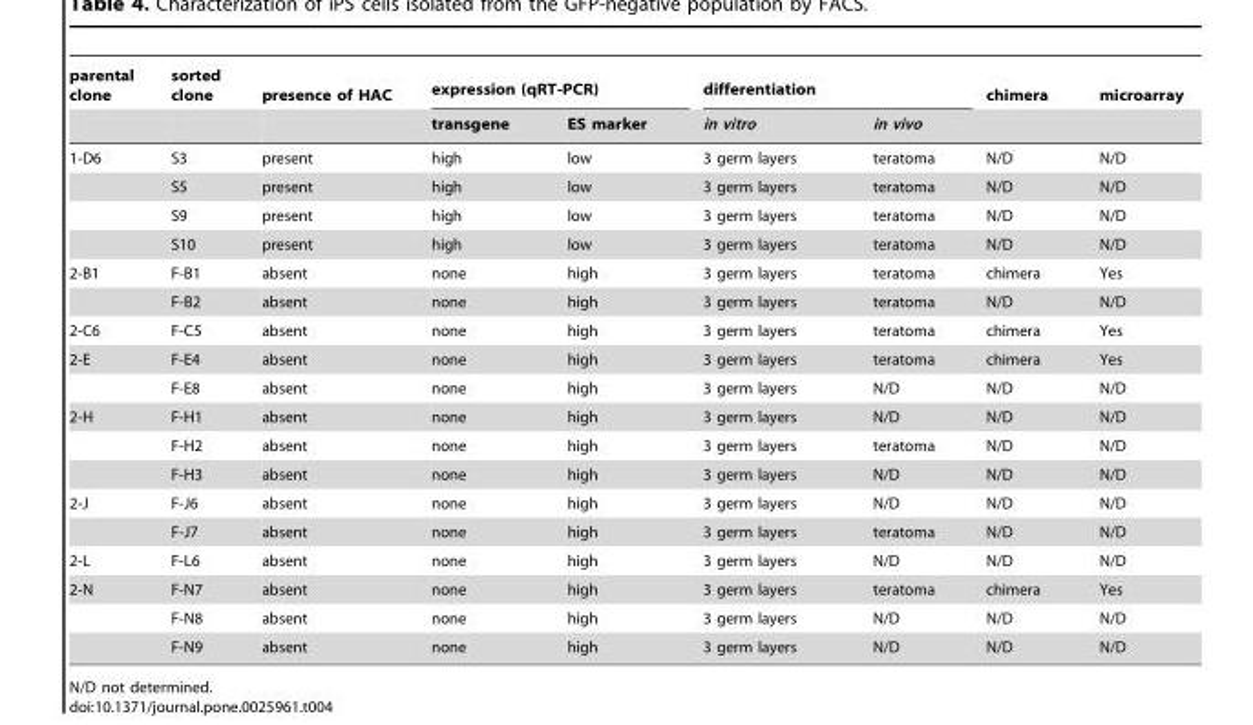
<table><thead><tr><td rowspan="2">parental clone</td><td rowspan="2">sorted clone</td><td rowspan="2">presence of HAC</td><td colspan="2">expression (qRT-PCR)</td><td colspan="2">differentiation</td><td rowspan="2">chimera</td><td rowspan="2">microarray</td></tr><tr><td>transgene</td><td>ES marker</td><td>in vitro</td><td>in vivo</td></tr></thead><tbody><tr><td rowspan="4">1-D6</td><td>S3</td><td>present</td><td>high</td><td>low</td><td>3 germ layers</td><td>teratoma</td><td>N/D</td><td>N/D</td></tr><tr><td>S5</td><td>present</td><td>high</td><td>low</td><td>3 germ layers</td><td>teratoma</td><td>N/D</td><td>N/D</td></tr><tr><td>S9</td><td>present</td><td>high</td><td>low</td><td>3 germ layers</td><td>teratoma</td><td>N/D</td><td>N/D</td></tr><tr><td>S10</td><td>present</td><td>high</td><td>low</td><td>3 germ layers</td><td>teratoma</td><td>N/D</td><td>N/D</td></tr><tr><td rowspan="2">2-B1</td><td>F-B1</td><td>absent</td><td>none</td><td>high</td><td>3 germ layers</td><td>teratoma</td><td>chimera</td><td>Yes</td></tr><tr><td>F-B2</td><td>absent</td><td>none</td><td>high</td><td>3 germ layers</td><td>teratoma</td><td>N/D</td><td>N/D</td></tr><tr><td>2-C6</td><td>F-C5</td><td>absent</td><td>none</td><td>high</td><td>3 germ layers</td><td>teratoma</td><td>chimera</td><td>Yes</td></tr><tr><td rowspan="2">2-E</td><td>F-E4</td><td>absent</td><td>none</td><td>high</td><td>3 germ layers</td><td>teratoma</td><td>chimera</td><td>Yes</td></tr><tr><td>F-E8</td><td>absent</td><td>none</td><td>high</td><td>3 germ layers</td><td>N/D</td><td>N/D</td><td>N/D</td></tr><tr><td rowspan="3">2-H</td><td>F-H1</td><td>absent</td><td>none</td><td>high</td><td>3 germ layers</td><td>N/D</td><td>N/D</td><td>N/D</td></tr><tr><td>F-H2</td><td>absent</td><td>none</td><td>high</td><td>3 germ layers</td><td>teratoma</td><td>N/D</td><td>N/D</td></tr><tr><td>F-H3</td><td>absent</td><td>none</td><td>high</td><td>3 germ layers</td><td>N/D</td><td>N/D</td><td>N/D</td></tr><tr><td rowspan="2">2-J</td><td>F-J6</td><td>absent</td><td>none</td><td>high</td><td>3 germ layers</td><td>N/D</td><td>N/D</td><td>N/D</td></tr><tr><td>F-J7</td><td>absent</td><td>none</td><td>high</td><td>3 germ layers</td><td>teratoma</td><td>N/D</td><td>N/D</td></tr><tr><td>2-L</td><td>F-L6</td><td>absent</td><td>none</td><td>high</td><td>3 germ layers</td><td>N/D</td><td>N/D</td><td>N/D</td></tr><tr><td rowspan="3">2-N</td><td>F-N7</td><td>absent</td><td>none</td><td>high</td><td>3 germ layers</td><td>teratoma</td><td>chimera</td><td>Yes</td></tr><tr><td>F-N8</td><td>absent</td><td>none</td><td>high</td><td>3 germ layers</td><td>N/D</td><td>N/D</td><td>N/D</td></tr><tr><td>F-N9</td><td>absent</td><td>none</td><td>high</td><td>3 germ layers</td><td>N/D</td><td>N/D</td><td>N/D</td></tr></tbody></table>